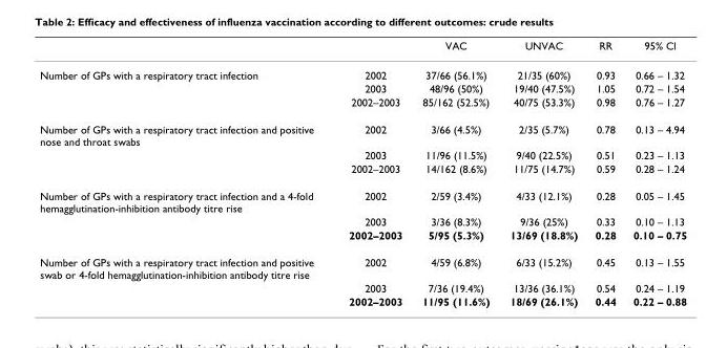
<table><thead><tr><td></td><td></td><td>VAC</td><td>UNVAC</td><td>RR</td><td>95% Cl</td></tr></thead><tbody><tr><td rowspan="3">Number of GPs with a respiratory tract infection</td><td>2002</td><td>37/66 (56.1%)</td><td>21/35 (60%)</td><td>0.93</td><td>0.66 – 1.32</td></tr><tr><td>2003</td><td>48/96 (50%)</td><td>19/40 (47.5%)</td><td>1.05</td><td>0.72 – 1.54</td></tr><tr><td>2002–2003</td><td>85/162 (52.5%)</td><td>40/75 (53.3%)</td><td>0.98</td><td>0.76 – 1.27</td></tr><tr><td rowspan="3">Number of GPs with a respiratory tract infection and positive nose and throat swabs</td><td>2002</td><td>3/66 (4.5%)</td><td>2/35 (5.7%)</td><td>0.78</td><td>0.13 – 4.94</td></tr><tr><td>2003</td><td>11/96 (11.5%)</td><td>9/40 (22.5%)</td><td>0.51</td><td>0.23 – 1.13</td></tr><tr><td>2002–2003</td><td>14/162 (8.6%)</td><td>11/75 (14.7%)</td><td>0.59</td><td>0.28 – 1.24</td></tr><tr><td rowspan="3">Number of GPs with a respiratory tract infection and a 4-fold hemagglutination-inhibition antibody titre rise</td><td>2002</td><td>2/59 (3.4%)</td><td>4/33 (12.1%)</td><td>0.28</td><td>0.05 – 1.45</td></tr><tr><td>2003</td><td>3/36 (8.3%)</td><td>9/36 (25%)</td><td>0.33</td><td>0.10 – 1.13</td></tr><tr><td>2002–2003</td><td>5/95 (5.3%)</td><td>13/69 (18.8%)</td><td>0.28</td><td>0.10 – 0.75</td></tr><tr><td rowspan="3">Number of GPs with a respiratory tract infection and positive swab or 4-fold hemagglutination-inhibition antibody titre rise</td><td>2002</td><td>4/59 (6.8%)</td><td>6/33 (15.2%)</td><td>0.45</td><td>0.13 – 1.55</td></tr><tr><td>2003</td><td>7/36 (19.4%)</td><td>13/36 (36.1%)</td><td>0.54</td><td>0.24 – 1.19</td></tr><tr><td>2002–2003</td><td>11/95 (11.6%)</td><td>18/69 (26.1%)</td><td>0.44</td><td>0.22 – 0.88</td></tr></tbody></table>